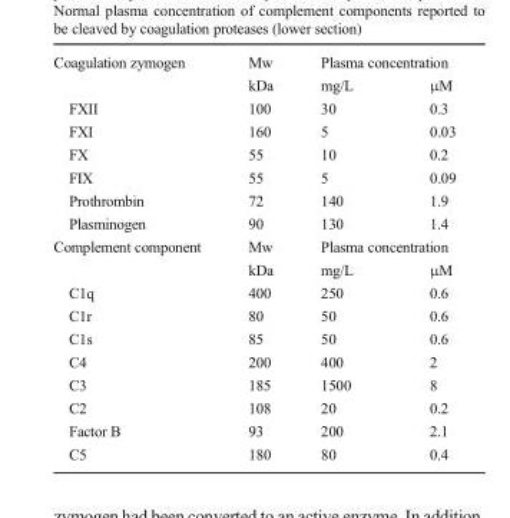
<table><tbody><tr><td rowspan="2">Coagulation zymogen</td><td>Mw</td><td colspan="2">Plasma concentration</td></tr><tr><td>kDa</td><td>mg/L</td><td>μM</td></tr><tr><td>FXII</td><td>100</td><td>30</td><td>0.3</td></tr><tr><td>FXI</td><td>160</td><td>5</td><td>0.03</td></tr><tr><td>FX</td><td>55</td><td>10</td><td>0.2</td></tr><tr><td>FIX</td><td>55</td><td>5</td><td>0.09</td></tr><tr><td>Prothrombin</td><td>72</td><td>140</td><td>1.9</td></tr><tr><td>Plasminogen</td><td>90</td><td>130</td><td>1.4</td></tr><tr><td rowspan="2">Complement component</td><td>Mw</td><td colspan="2">Plasma concentration</td></tr><tr><td>kDa</td><td>mg/L</td><td>μM</td></tr><tr><td>C1q</td><td>400</td><td>250</td><td>0.6</td></tr><tr><td>C1r</td><td>80</td><td>50</td><td>0.6</td></tr><tr><td>C1s</td><td>85</td><td>50</td><td>0.6</td></tr><tr><td>C4</td><td>200</td><td>400</td><td>2</td></tr><tr><td>C3</td><td>185</td><td>1500</td><td>8</td></tr><tr><td>C2</td><td>108</td><td>20</td><td>0.2</td></tr><tr><td>Factor B</td><td>93</td><td>200</td><td>2.1</td></tr><tr><td>C5</td><td>180</td><td>80</td><td>0.4</td></tr></tbody></table>